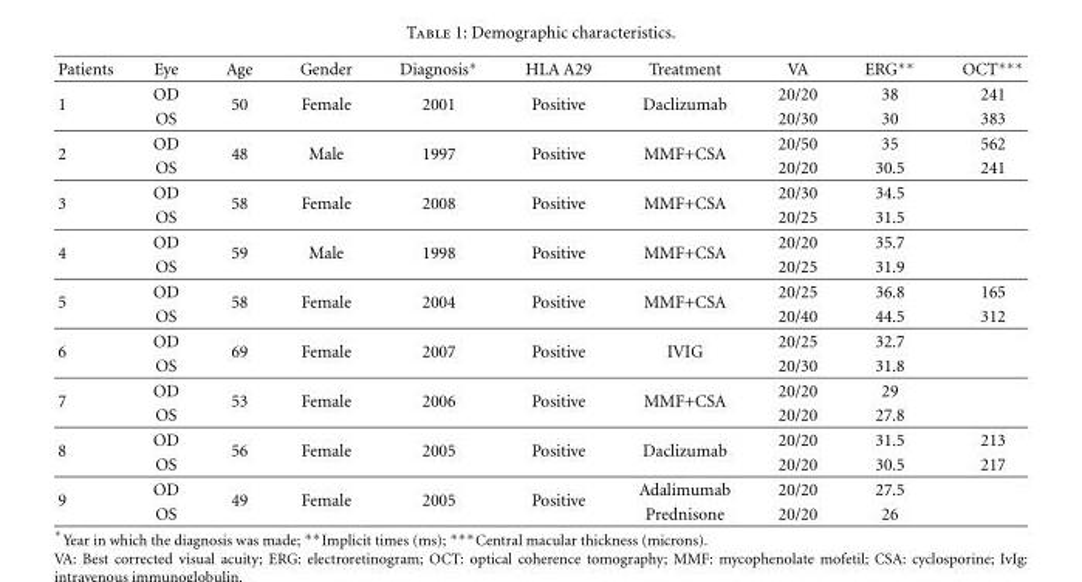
<table><thead><tr><td>Patients</td><td>Eye</td><td>Age</td><td>Gender</td><td>Diagnosis∗</td><td>HLA A29</td><td>Treatment</td><td>VA</td><td>ERG∗∗</td><td>OCT∗∗∗</td></tr></thead><tbody><tr><td rowspan="2">1</td><td>OD</td><td rowspan="2">50</td><td rowspan="2">Female</td><td rowspan="2">2001</td><td rowspan="2">Positive</td><td rowspan="2">Daclizumab</td><td>20/20</td><td>38</td><td>241</td></tr><tr><td>OS</td><td>20/30</td><td>30</td><td>383</td></tr><tr><td rowspan="2">2</td><td>OD</td><td rowspan="2">48</td><td rowspan="2">Male</td><td rowspan="2">1997</td><td rowspan="2">Positive</td><td rowspan="2">MMF+CSA</td><td>20/50</td><td>35</td><td>562</td></tr><tr><td>OS</td><td>20/20</td><td>30.5</td><td>241</td></tr><tr><td rowspan="2">3</td><td>OD</td><td rowspan="2">58</td><td rowspan="2">Female</td><td rowspan="2">2008</td><td rowspan="2">Positive</td><td rowspan="2">MMF+CSA</td><td>20/30</td><td>34.5</td><td></td></tr><tr><td>OS</td><td>20/25</td><td>31.5</td><td></td></tr><tr><td rowspan="2">4</td><td>OD</td><td rowspan="2">59</td><td rowspan="2">Male</td><td rowspan="2">1998</td><td rowspan="2">Positive</td><td rowspan="2">MMF+CSA</td><td>20/20</td><td>35.7</td><td></td></tr><tr><td>OS</td><td>20/25</td><td>31.9</td><td></td></tr><tr><td rowspan="2">5</td><td>OD</td><td rowspan="2">58</td><td rowspan="2">Female</td><td rowspan="2">2004</td><td rowspan="2">Positive</td><td rowspan="2">MMF+CSA</td><td>20/25</td><td>36.8</td><td>165</td></tr><tr><td>OS</td><td>20/40</td><td>44.5</td><td>312</td></tr><tr><td rowspan="2">6</td><td>OD</td><td rowspan="2">69</td><td rowspan="2">Female</td><td rowspan="2">2007</td><td rowspan="2">Positive</td><td rowspan="2">IVIG</td><td>20/25</td><td>32.7</td><td></td></tr><tr><td>OS</td><td>20/30</td><td>31.8</td><td></td></tr><tr><td rowspan="2">7</td><td>OD</td><td rowspan="2">53</td><td rowspan="2">Female</td><td rowspan="2">2006</td><td rowspan="2">Positive</td><td rowspan="2">MMF+CSA</td><td>20/20</td><td>29</td><td></td></tr><tr><td>OS</td><td>20/20</td><td>27.8</td><td></td></tr><tr><td rowspan="2">8</td><td>OD</td><td rowspan="2">56</td><td rowspan="2">Female</td><td rowspan="2">2005</td><td rowspan="2">Positive</td><td rowspan="2">Daclizumab</td><td>20/20</td><td>31.5</td><td>213</td></tr><tr><td>OS</td><td>20/20</td><td>30.5</td><td>217</td></tr><tr><td rowspan="2">9</td><td>OD</td><td rowspan="2">49</td><td rowspan="2">Female</td><td rowspan="2">2005</td><td rowspan="2">Positive</td><td>Adalimumab</td><td>20/20</td><td>27.5</td><td></td></tr><tr><td>OS</td><td>Prednisone</td><td>20/20</td><td>26</td><td></td></tr></tbody></table>